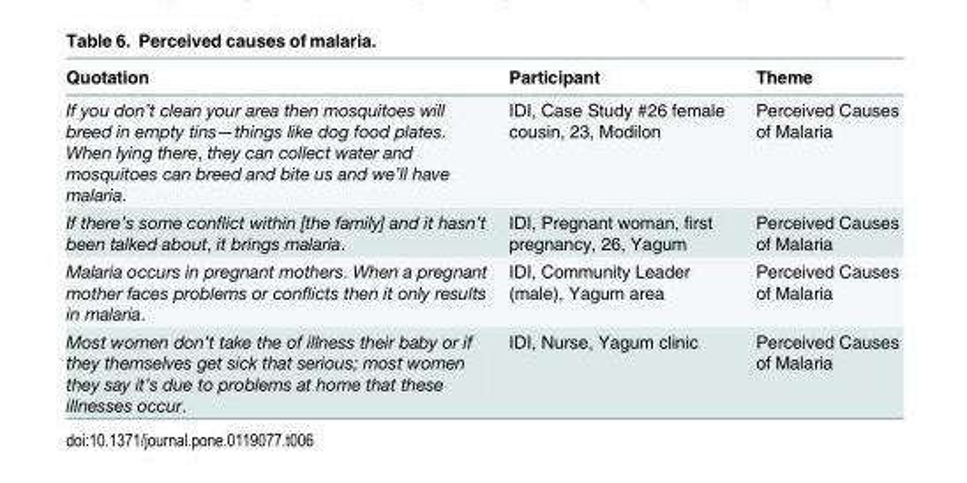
<table><thead><tr><td>Quotation</td><td>Participant</td><td>Theme</td></tr></thead><tbody><tr><td>If you don’t clean your area then mosquitoes will breed in empty tins—things like dog food plates. When lying there, they can collect water and mosquitoes can breed and bite us and we’ll have malaria.</td><td>IDI, Case Study #26 female cousin, 23, Modilon</td><td>Perceived Causes of Malaria</td></tr><tr><td>If there’s some conflict within [the family] and it hasn’t been talked about, it brings malaria.</td><td>IDI, Pregnant woman, first pregnancy, 26, Yagum</td><td>Perceived Causes of Malaria</td></tr><tr><td>Malaria occurs in pregnant mothers. When a pregnant mother faces problems or conflicts then it only results in malaria.</td><td>IDI, Community Leader (male), Yagum area</td><td>Perceived Causes of Malaria</td></tr><tr><td>Most women don’t take the of illness their baby or if they themselves get sick that serious; most women they say it’s due to problems at home that these illnesses occur.</td><td>IDI, Nurse, Yagum clinic</td><td>Perceived Causes of Malaria</td></tr></tbody></table>